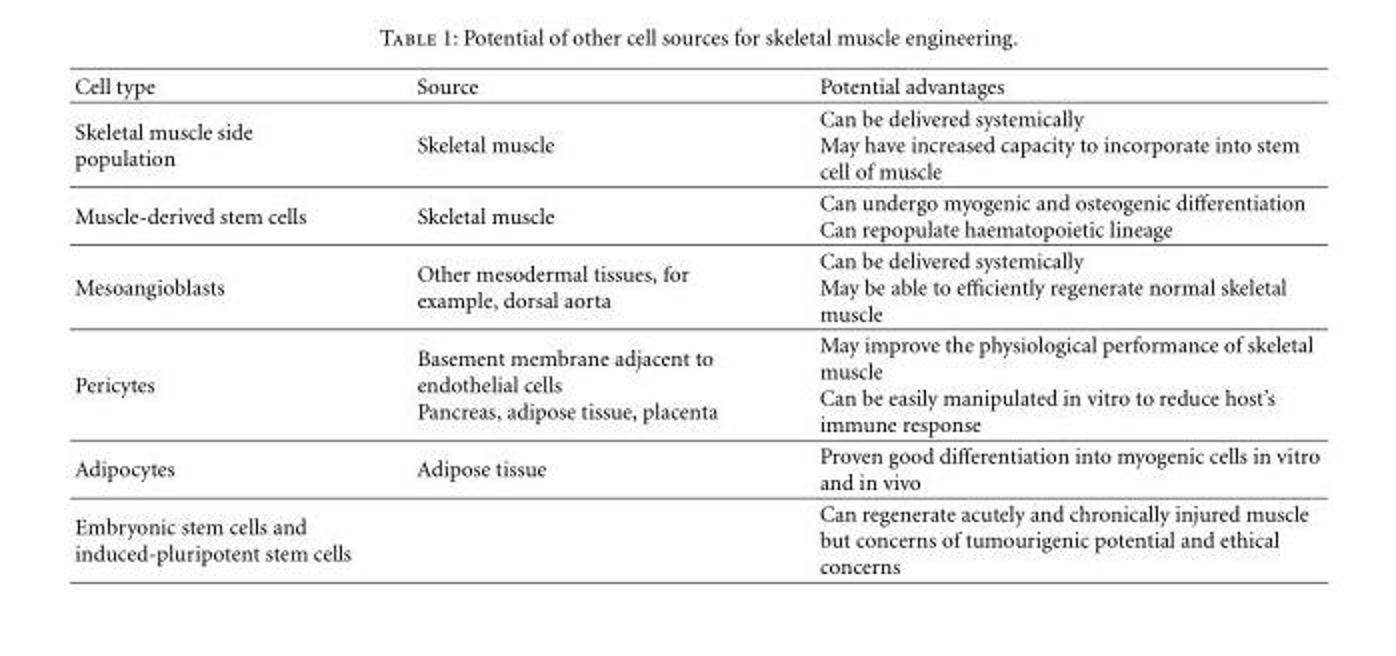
<table><thead><tr><td>Cell type</td><td>Source</td><td>Potential advantages</td></tr></thead><tbody><tr><td>Skeletal muscle side population</td><td>Skeletal muscle</td><td>Can be delivered systemically May have increased capacity to incorporate into stem cell of muscle</td></tr><tr><td>Muscle-derived stem cells</td><td>Skeletal muscle</td><td>Can undergo myogenic and osteogenic differentiation Can repopulate haematopoietic lineage</td></tr><tr><td>Mesoangioblasts</td><td>Other mesodermal tissues, for example, dorsal aorta</td><td>Can be delivered systemically May be able to efficiently regenerate normal skeletal muscle</td></tr><tr><td>Pericytes</td><td>Basement membrane adjacent to endothelial cells Pancreas, adipose tissue, placenta</td><td>May improve the physiological performance of skeletal muscle Can be easily manipulated in vitro to reduce host’s immune response</td></tr><tr><td>Adipocytes</td><td>Adipose tissue</td><td>Proven good differentiation into myogenic cells in vitro and in vivo</td></tr><tr><td>Embryonic stem cells and induced-pluripotent stem cells</td><td></td><td>Can regenerate acutely and chronically injured muscle but concerns of tumourigenic potential and ethical concerns</td></tr></tbody></table>